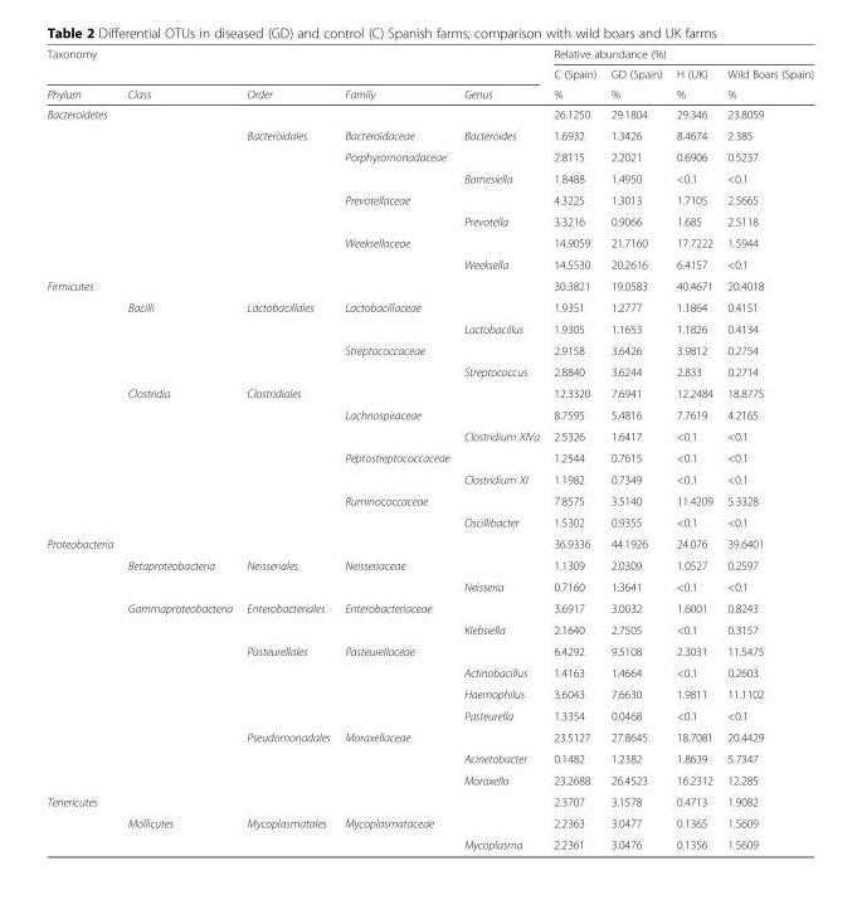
<table><thead><tr><td rowspan="2" colspan="5">Taxonomy</td><td colspan="4">Relative abundance (%)</td></tr><tr><td rowspan="2">C (Spain) %</td><td rowspan="2">GD (Spain) %</td><td rowspan="2">H (UK) %</td><td rowspan="2">Wild Boars (Spain) %</td></tr><tr><td>Phylum</td><td>Class</td><td>Order</td><td>Family</td><td>Genus</td></tr></thead><tbody><tr><td rowspan="8">Bacteroidetes</td><td></td><td></td><td></td><td></td><td>26.1250</td><td>29.1804</td><td>29.346</td><td>23.8059</td></tr><tr><td></td><td>Bacteroidales</td><td>Bacteroidaceae</td><td>Bacteroides</td><td>1.6932</td><td>1.3426</td><td>8.4674</td><td>2.385</td></tr><tr><td></td><td></td><td>Porphyromonadaceae</td><td></td><td>2.8115</td><td>2.2021</td><td>0.6906</td><td>0.5237</td></tr><tr><td></td><td></td><td></td><td>Barnesiella</td><td>1.8488</td><td>1.4950</td><td>&lt;0.1</td><td>&lt;0.1</td></tr><tr><td></td><td></td><td>Prevotellaceae</td><td></td><td>4.3225</td><td>1.3013</td><td>1.7105</td><td>2.5665</td></tr><tr><td></td><td></td><td></td><td>Prevotella</td><td>3.3216</td><td>0.9066</td><td>1.685</td><td>2.5118</td></tr><tr><td></td><td></td><td>Weeksellaceae</td><td></td><td>14.9059</td><td>21.7160</td><td>17.7222</td><td>1.5944</td></tr><tr><td></td><td></td><td></td><td>Weeksella</td><td>14.5530</td><td>20.2616</td><td>6.4157</td><td>&lt;0.1</td></tr><tr><td rowspan="12">Firmicutes</td><td></td><td></td><td></td><td></td><td>30.3821</td><td>19.0583</td><td>40.4671</td><td>20.4018</td></tr><tr><td>Bacilli</td><td>Lactobacillales</td><td>Lactobacillaceae</td><td></td><td>1.9351</td><td>1.2777</td><td>1.1864</td><td>0.4151</td></tr><tr><td></td><td></td><td></td><td>Lactobacillus</td><td>1.9305</td><td>1.1653</td><td>1.1826</td><td>0.4134</td></tr><tr><td></td><td></td><td>Streptococcaceae</td><td></td><td>2.9158</td><td>3.6426</td><td>3.9812</td><td>0.2754</td></tr><tr><td></td><td></td><td></td><td>Streptococcus</td><td>2.8840</td><td>3.6244</td><td>2.833</td><td>0.2714</td></tr><tr><td>Clostridia</td><td>Clostridiales</td><td></td><td></td><td>12.3320</td><td>7.6941</td><td>12.2484</td><td>18.8775</td></tr><tr><td></td><td></td><td>Lachnospiraceae</td><td></td><td>8.7595</td><td>5.4816</td><td>7.7619</td><td>4.2165</td></tr><tr><td></td><td></td><td></td><td>Clostridium XlVa</td><td>2.5326</td><td>1.6417</td><td>&lt;0.1</td><td>&lt;0.1</td></tr><tr><td></td><td></td><td>Peptostreptococcaceae</td><td></td><td>1.2544</td><td>0.7615</td><td>&lt;0.1</td><td>&lt;0.1</td></tr><tr><td></td><td></td><td></td><td>Clostridium XI</td><td>1.1982</td><td>0.7349</td><td>&lt;0.1</td><td>&lt;0.1</td></tr><tr><td></td><td></td><td>Ruminococcaceae</td><td></td><td>7.8575</td><td>3.5140</td><td>11.4209</td><td>5.3328</td></tr><tr><td></td><td></td><td></td><td>Oscillibacter</td><td>1.5302</td><td>0.9355</td><td>&lt;0.1</td><td>&lt;0.1</td></tr><tr><td rowspan="12">Proteobacteria</td><td></td><td></td><td></td><td></td><td>36.9336</td><td>44.1926</td><td>24.076</td><td>39.6401</td></tr><tr><td>Betaproteobacteria</td><td>Neisseriales</td><td>Neisseriaceae</td><td></td><td>1.1309</td><td>2.0309</td><td>1.0527</td><td>0.2597</td></tr><tr><td></td><td></td><td></td><td>Neisseria</td><td>0.7160</td><td>1.3641</td><td>&lt;0.1</td><td>&lt;0.1</td></tr><tr><td>Gammaproteobacteria</td><td>Enterobacteriales</td><td>Enterobacteriaceae</td><td></td><td>3.6917</td><td>3.0032</td><td>1.6001</td><td>0.8243</td></tr><tr><td></td><td></td><td></td><td>Klebsiella</td><td>2.1640</td><td>2.7505</td><td>&lt;0.1</td><td>0.3157</td></tr><tr><td></td><td>Pasteurellales</td><td>Pasteurellaceae</td><td></td><td>6.4292</td><td>9.5108</td><td>2.3031</td><td>11.5475</td></tr><tr><td></td><td></td><td></td><td>Actinobacillus</td><td>1.4163</td><td>1.4664</td><td>&lt;0.1</td><td>0.2603</td></tr><tr><td></td><td></td><td></td><td>Haemophilus</td><td>3.6043</td><td>7.6630</td><td>1.9811</td><td>11.1102</td></tr><tr><td></td><td></td><td></td><td>Pasteurella</td><td>1.3354</td><td>0.0468</td><td>&lt;0.1</td><td>&lt;0.1</td></tr><tr><td></td><td>Pseudomonadales</td><td>Moraxellaceae</td><td></td><td>23.5127</td><td>27.8645</td><td>18.7081</td><td>20.4429</td></tr><tr><td></td><td></td><td></td><td>Acinetobacter</td><td>0.1482</td><td>1.2382</td><td>1.8639</td><td>5.7347</td></tr><tr><td></td><td></td><td></td><td>Moraxella</td><td>23.2688</td><td>26.4523</td><td>16.2312</td><td>12.285</td></tr><tr><td rowspan="3">Tenericutes</td><td></td><td></td><td></td><td></td><td>2.3707</td><td>3.1578</td><td>0.4713</td><td>1.9082</td></tr><tr><td>Mollicutes</td><td>Mycoplasmatales</td><td>Mycoplasmataceae</td><td></td><td>2.2363</td><td>3.0477</td><td>0.1365</td><td>1.5609</td></tr><tr><td></td><td></td><td></td><td>Mycoplasma</td><td>2.2361</td><td>3.0476</td><td>0.1356</td><td>1.5609</td></tr></tbody></table>